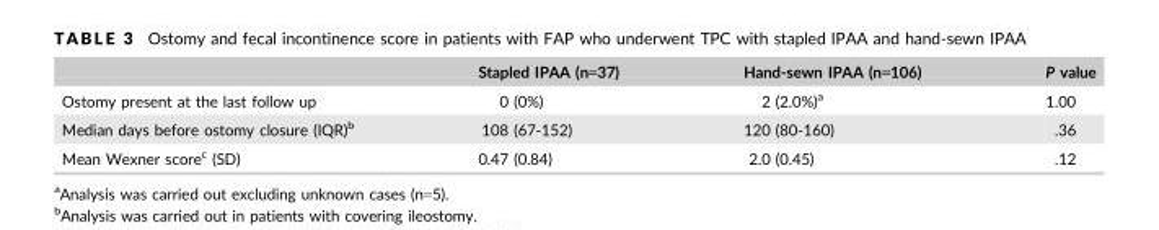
<table><thead><tr><td></td><td>Stapled IPAA (n=37)</td><td>Hand-sewn IPAA (n=106)</td><td>P value</td></tr></thead><tbody><tr><td>Ostomy present at the last follow up</td><td>0 (0%)</td><td>2 (2.0%)a</td><td>1.00</td></tr><tr><td>Median days before ostomy closure (IQR)b</td><td>108 (67-152)</td><td>120 (80-160)</td><td>.36</td></tr><tr><td>Mean Wexner scorec (SD)</td><td>0.47 (0.84)</td><td>2.0 (0.45)</td><td>.12</td></tr></tbody></table>